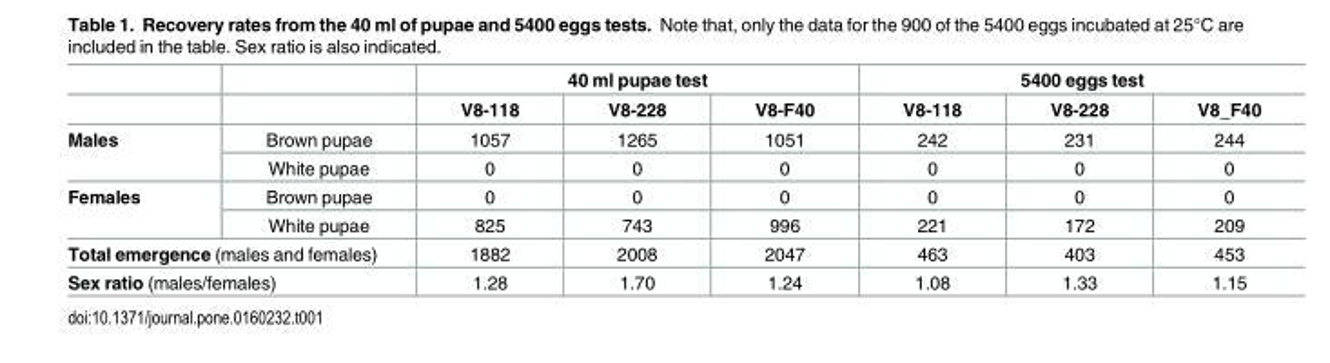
<table><thead><tr><td rowspan="2"></td><td rowspan="2"></td><td colspan="3">40 ml pupae test</td><td colspan="3">5400 eggs test</td></tr><tr><td>V8-118</td><td>V8-228</td><td>V8-F40</td><td>V8-118</td><td>V8-228</td><td>V8_F40</td></tr></thead><tbody><tr><td rowspan="2">Males</td><td>Brown pupae</td><td>1057</td><td>1265</td><td>1051</td><td>242</td><td>231</td><td>244</td></tr><tr><td>White pupae</td><td>0</td><td>0</td><td>0</td><td>0</td><td>0</td><td>0</td></tr><tr><td rowspan="2">Females</td><td>Brown pupae</td><td>0</td><td>0</td><td>0</td><td>0</td><td>0</td><td>0</td></tr><tr><td>White pupae</td><td>825</td><td>743</td><td>996</td><td>221</td><td>172</td><td>209</td></tr><tr><td colspan="2">Total emergence (males and females)</td><td>1882</td><td>2008</td><td>2047</td><td>463</td><td>403</td><td>453</td></tr><tr><td colspan="2">Sex ratio (males/females)</td><td>1.28</td><td>1.70</td><td>1.24</td><td>1.08</td><td>1.33</td><td>1.15</td></tr></tbody></table>